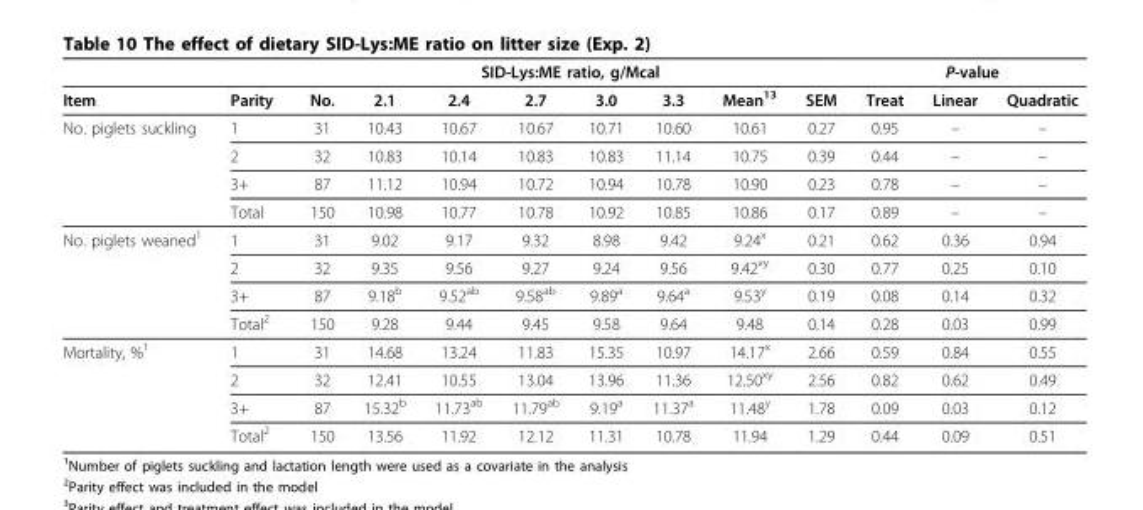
<table><thead><tr><td rowspan="2">Item</td><td rowspan="2">Parity</td><td rowspan="2">No.</td><td colspan="6">SID-Lys:ME ratio, g/Mcal</td><td rowspan="2">SEM</td><td colspan="3">P-value</td></tr><tr><td>2.1</td><td>2.4</td><td>2.7</td><td>3.0</td><td>3.3</td><td>Mean<sup>13</sup></td><td>Treat</td><td>Linear</td><td>Quadratic</td></tr></thead><tbody><tr><td rowspan="4">No. piglets suckling</td><td>1</td><td>31</td><td>10.43</td><td>10.67</td><td>10.67</td><td>10.71</td><td>10.60</td><td>10.61</td><td>0.27</td><td>0.95</td><td>–</td><td>–</td></tr><tr><td>2</td><td>32</td><td>10.83</td><td>10.14</td><td>10.83</td><td>10.83</td><td>11.14</td><td>10.75</td><td>0.39</td><td>0.44</td><td>–</td><td>–</td></tr><tr><td>3+</td><td>87</td><td>11.12</td><td>10.94</td><td>10.72</td><td>10.94</td><td>10.78</td><td>10.90</td><td>0.23</td><td>0.78</td><td>–</td><td>–</td></tr><tr><td>Total</td><td>150</td><td>10.98</td><td>10.77</td><td>10.78</td><td>10.92</td><td>10.85</td><td>10.86</td><td>0.17</td><td>0.89</td><td>–</td><td>–</td></tr><tr><td rowspan="4">No. piglets weaned<sup>1</sup></td><td>1</td><td>31</td><td>9.02</td><td>9.17</td><td>9.32</td><td>8.98</td><td>9.42</td><td>9.24<sup>x</sup></td><td>0.21</td><td>0.62</td><td>0.36</td><td>0.94</td></tr><tr><td>2</td><td>32</td><td>9.35</td><td>9.56</td><td>9.27</td><td>9.24</td><td>9.56</td><td>9.42<sup>xy</sup></td><td>0.30</td><td>0.77</td><td>0.25</td><td>0.10</td></tr><tr><td>3+</td><td>87</td><td>9.18<sup>b</sup></td><td>9.52<sup>ab</sup></td><td>9.58<sup>ab</sup></td><td>9.89<sup>a</sup></td><td>9.64<sup>a</sup></td><td>9.53<sup>y</sup></td><td>0.19</td><td>0.08</td><td>0.14</td><td>0.32</td></tr><tr><td>Total<sup>2</sup></td><td>150</td><td>9.28</td><td>9.44</td><td>9.45</td><td>9.58</td><td>9.64</td><td>9.48</td><td>0.14</td><td>0.28</td><td>0.03</td><td>0.99</td></tr><tr><td rowspan="4">Mortality, %<sup>1</sup></td><td>1</td><td>31</td><td>14.68</td><td>13.24</td><td>11.83</td><td>15.35</td><td>10.97</td><td>14.17<sup>x</sup></td><td>2.66</td><td>0.59</td><td>0.84</td><td>0.55</td></tr><tr><td>2</td><td>32</td><td>12.41</td><td>10.55</td><td>13.04</td><td>13.96</td><td>11.36</td><td>12.50<sup>xy</sup></td><td>2.56</td><td>0.82</td><td>0.62</td><td>0.49</td></tr><tr><td>3+</td><td>87</td><td>15.32<sup>b</sup></td><td>11.73<sup>ab</sup></td><td>11.79<sup>ab</sup></td><td>9.19<sup>a</sup></td><td>11.37<sup>a</sup></td><td>11.48<sup>y</sup></td><td>1.78</td><td>0.09</td><td>0.03</td><td>0.12</td></tr><tr><td>Total<sup>2</sup></td><td>150</td><td>13.56</td><td>11.92</td><td>12.12</td><td>11.31</td><td>10.78</td><td>11.94</td><td>1.29</td><td>0.44</td><td>0.09</td><td>0.51</td></tr></tbody></table>